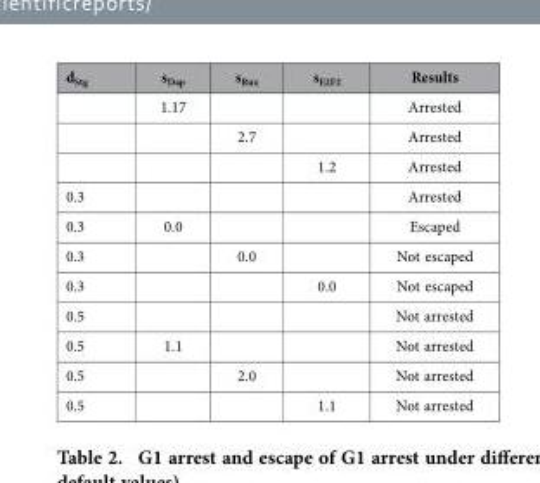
<table><thead><tr><td>d<sub>Stg</sub></td><td>s<sub>Dap</sub></td><td>s<sub>Rux</sub></td><td>s<sub>E2F2</sub></td><td>Results</td></tr></thead><tbody><tr><td></td><td>1.17</td><td></td><td></td><td>Arrested</td></tr><tr><td></td><td></td><td>2.7</td><td></td><td>Arrested</td></tr><tr><td></td><td></td><td></td><td>1.2</td><td>Arrested</td></tr><tr><td>0.3</td><td></td><td></td><td></td><td>Arrested</td></tr><tr><td>0.3</td><td>0.0</td><td></td><td></td><td>Escaped</td></tr><tr><td>0.3</td><td></td><td>0.0</td><td></td><td>Not escaped</td></tr><tr><td>0.3</td><td></td><td></td><td>0.0</td><td>Not escaped</td></tr><tr><td>0.5</td><td></td><td></td><td></td><td>Not arrested</td></tr><tr><td>0.5</td><td>1.1</td><td></td><td></td><td>Not arrested</td></tr><tr><td>0.5</td><td></td><td>2.0</td><td></td><td>Not arrested</td></tr><tr><td>0.5</td><td></td><td></td><td>1.1</td><td>Not arrested</td></tr></tbody></table>